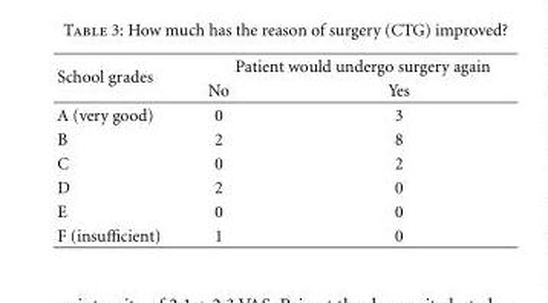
<table><thead><tr><td rowspan="2">School grades</td><td colspan="2">Patient would undergo surgery again</td></tr><tr><td>No</td><td>Yes</td></tr></thead><tbody><tr><td>A (very good)</td><td>0</td><td>3</td></tr><tr><td>B</td><td>2</td><td>8</td></tr><tr><td>C</td><td>0</td><td>2</td></tr><tr><td>D</td><td>2</td><td>0</td></tr><tr><td>E</td><td>0</td><td>0</td></tr><tr><td>F (insufficient)</td><td>1</td><td>0</td></tr></tbody></table>